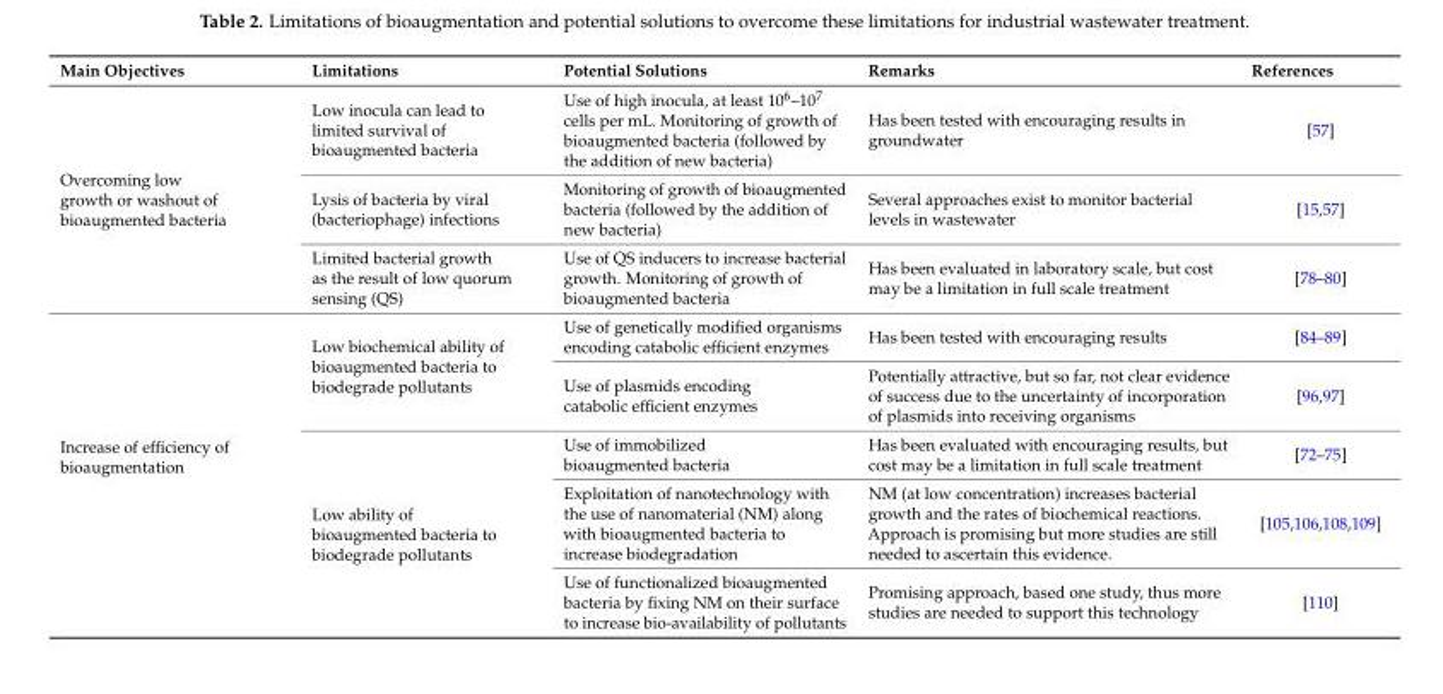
<table><thead><tr><td>Main Objectives</td><td>Limitations</td><td>Potential Solutions</td><td>Remarks</td><td>References</td></tr></thead><tbody><tr><td rowspan="3">Overcoming low growth or washout of bioaugmented bacteria</td><td>Low inocula can lead to limited survival of bioaugmented bacteria</td><td>Use of high inocula, at least 10<sup>6</sup>–10<sup>7</sup> cells per mL. Monitoring of growth of bioaugmented bacteria (followed by the addition of new bacteria)</td><td>Has been tested with encouraging results in groundwater</td><td>[57]</td></tr><tr><td>Lysis of bacteria by viral (bacteriophage) infections</td><td>Monitoring of growth of bioaugmented bacteria (followed by the addition of new bacteria)</td><td>Several approaches exist to monitor bacterial levels in wastewater</td><td>[15,57]</td></tr><tr><td>Limited bacterial growth as the result of low quorum sensing (QS)</td><td>Use of QS inducers to increase bacterial growth. Monitoring of growth of bioaugmented bacteria</td><td>Has been evaluated in laboratory scale, but cost may be a limitation in full scale treatment</td><td>[78–80]</td></tr><tr><td rowspan="5">Increase of efficiency of bioaugmentation</td><td rowspan="2">Low biochemical ability of bioaugmented bacteria to biodegrade pollutants</td><td>Use of genetically modified organisms encoding catabolic efficient enzymes</td><td>Has been tested with encouraging results</td><td>[84–89]</td></tr><tr><td>Use of plasmids encoding catabolic efficient enzymes</td><td>Potentially attractive, but so far, not clear evidence of success due to the uncertainty of incorporation of plasmids into receiving organisms</td><td>[96,97]</td></tr><tr><td rowspan="3">Low ability of bioaugmented bacteria to biodegrade pollutants</td><td>Use of immobilized bioaugmented bacteria</td><td>Has been evaluated with encouraging results, but cost may be a limitation in full scale treatment</td><td>[72–75]</td></tr><tr><td>Exploitation of nanotechnology with the use of nanomaterial (NM) along with bioaugmented bacteria to increase biodegradation</td><td>NM (at low concentration) increases bacterial growth and the rates of biochemical reactions. Approach is promising but more studies are still needed to ascertain this evidence.</td><td>[105,106,108,109]</td></tr><tr><td>Use of functionalized bioaugmented bacteria by fixing NM on their surface to increase bio-availability of pollutants</td><td>Promising approach, based one study, thus more studies are needed to support this technology</td><td>[110]</td></tr></tbody></table>